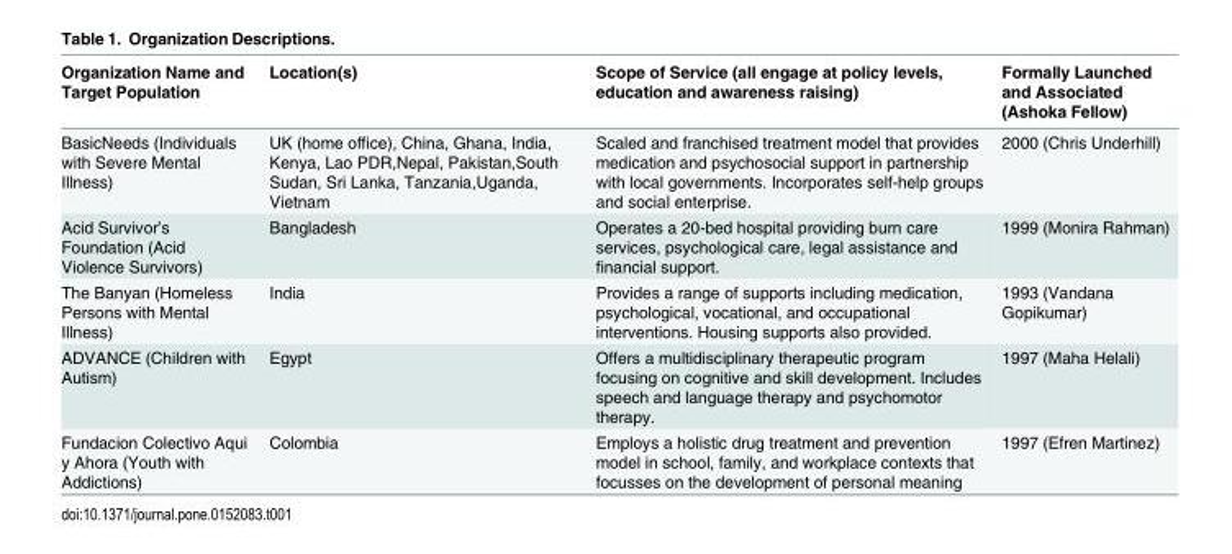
<table><thead><tr><td>Organization Name and Target Population</td><td>Location(s)</td><td>Scope of Service (all engage at policy levels, education and awareness raising)</td><td>Formally Launched and Associated (Ashoka Fellow)</td></tr></thead><tbody><tr><td>BasicNeeds (Individuals with Severe Mental Illness)</td><td>UK (home office), China, Ghana, India, Kenya, Lao PDR,Nepal, Pakistan,South Sudan, Sri Lanka, Tanzania,Uganda, Vietnam</td><td>Scaled and franchised treatment model that provides medication and psychosocial support in partnership with local governments. Incorporates self-help groups and social enterprise.</td><td>2000 (Chris Underhill)</td></tr><tr><td>Acid Survivor’s Foundation (Acid Violence Survivors)</td><td>Bangladesh</td><td>Operates a 20-bed hospital providing burn care services, psychological care, legal assistance and financial support.</td><td>1999 (Monira Rahman)</td></tr><tr><td>The Banyan (Homeless Persons with Mental Illness)</td><td>India</td><td>Provides a range of supports including medication, psychological, vocational, and occupational interventions. Housing supports also provided.</td><td>1993 (Vandana Gopikumar)</td></tr><tr><td>ADVANCE (Children with Autism)</td><td>Egypt</td><td>Offers a multidisciplinary therapeutic program focusing on cognitive and skill development. Includes speech and language therapy and psychomotor therapy.</td><td>1997 (Maha Helali)</td></tr><tr><td>Fundacion Colectivo Aqui y Ahora (Youth with Addictions)</td><td>Colombia</td><td>Employs a holistic drug treatment and prevention model in school, family, and workplace contexts that focusses on the development of personal meaning</td><td>1997 (Efren Martinez)</td></tr></tbody></table>